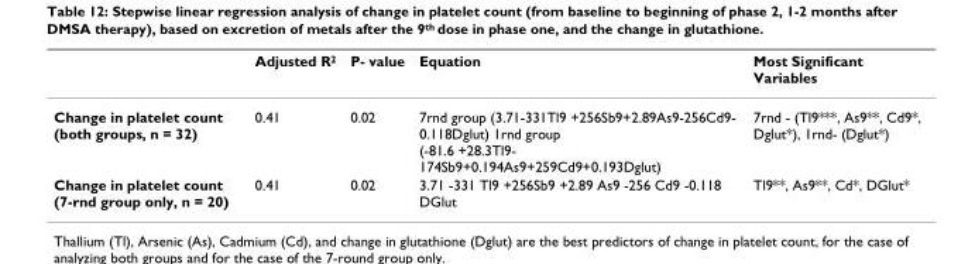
<table><thead><tr><td></td><td>Adjusted R<sup>2</sup></td><td>P- value</td><td>Equation</td><td>Most Significant Variables</td></tr></thead><tbody><tr><td>Change in platelet count (both groups, n = 32)</td><td>0.41</td><td>0.02</td><td>7rnd group (3.71-331Tl9 +256Sb9+2.89As9-256Cd9- 0.118Dglut) 1rnd group (-81.6 +28.3Tl9- 174Sb9+0.194As9+259Cd9+0.193Dglut)</td><td>7rnd - (Tl9***, As9**, Cd9*, Dglut*), 1rnd- (Dglut*)</td></tr><tr><td>Change in platelet count (7-rnd group only, n = 20)</td><td>0.41</td><td>0.02</td><td>3.71 -331 Tl9 +256Sb9 +2.89 As9 -256 Cd9 -0.118 DGlut</td><td>Tl9**, As9**, Cd*, DGlut*</td></tr></tbody></table>